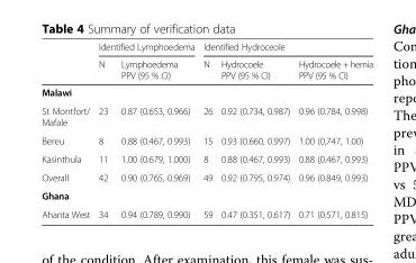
<table><thead><tr><td rowspan="2"></td><td colspan="2">Identified Lymphoedema</td><td colspan="3">Identified Hydroceole</td></tr><tr><td>N</td><td>Lymphoedema PPV (95 % CI)</td><td>N</td><td>Hydrocoele PPV (95 % CI)</td><td>Hydrocoele + hernia PPV (95 % CI)</td></tr></thead><tbody><tr><td colspan="6">Malawi</td></tr><tr><td>St Montfort/ Mafale</td><td>23</td><td>0.87 (0.653, 0.966)</td><td>26</td><td>0.92 (0.734, 0.987)</td><td>0.96 (0.784, 0.998)</td></tr><tr><td>Bereu</td><td>8</td><td>0.88 (0.467, 0.993)</td><td>15</td><td>0.93 (0.660, 0.997)</td><td>1.00 (0,747, 1.00)</td></tr><tr><td>Kasinthula</td><td>11</td><td>1.00 (0.679, 1.000)</td><td>8</td><td>0.88 (0.467, 0.993)</td><td>0.88 (0.467, 0.993)</td></tr><tr><td>Overall</td><td>42</td><td>0.90 (0.765, 0.969)</td><td>49</td><td>0.92 (0.795, 0.974)</td><td>0.96 (0.849, 0.993)</td></tr><tr><td colspan="6">Ghana</td></tr><tr><td>Ahanta West</td><td>34</td><td>0.94 (0.789, 0.990)</td><td>59</td><td>0.47 (0.351, 0.617)</td><td>0.71 (0.571, 0.815)</td></tr></tbody></table>